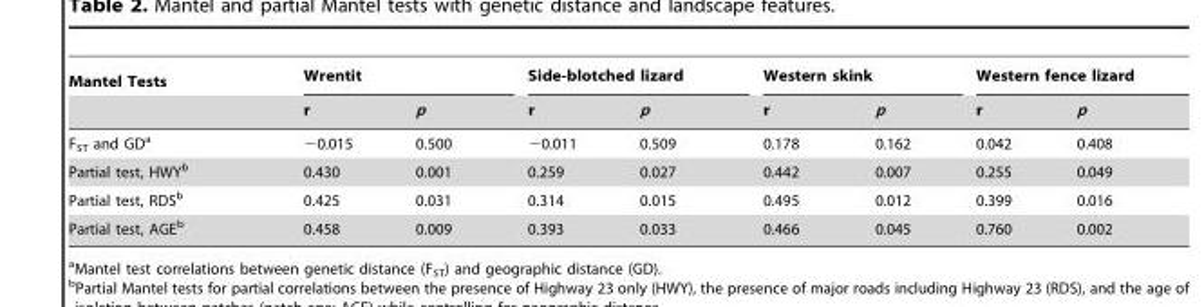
<table><thead><tr><td rowspan="2">Mantel Tests</td><td colspan="2">Wrentit</td><td colspan="2">Side-blotched lizard</td><td colspan="2">Western skink</td><td colspan="2">Western fence lizard</td></tr><tr><td>r</td><td>p</td><td>r</td><td>p</td><td>r</td><td>p</td><td>r</td><td>p</td></tr></thead><tbody><tr><td>F<sub>ST</sub> and GD<sup>a</sup></td><td>−0.015</td><td>0.500</td><td>−0.011</td><td>0.509</td><td>0.178</td><td>0.162</td><td>0.042</td><td>0.408</td></tr><tr><td>Partial test, HWY<sup>b</sup></td><td>0.430</td><td>0.001</td><td>0.259</td><td>0.027</td><td>0.442</td><td>0.007</td><td>0.255</td><td>0.049</td></tr><tr><td>Partial test, RDS<sup>b</sup></td><td>0.425</td><td>0.031</td><td>0.314</td><td>0.015</td><td>0.495</td><td>0.012</td><td>0.399</td><td>0.016</td></tr><tr><td>Partial test, AGE<sup>b</sup></td><td>0.458</td><td>0.009</td><td>0.393</td><td>0.033</td><td>0.466</td><td>0.045</td><td>0.760</td><td>0.002</td></tr></tbody></table>